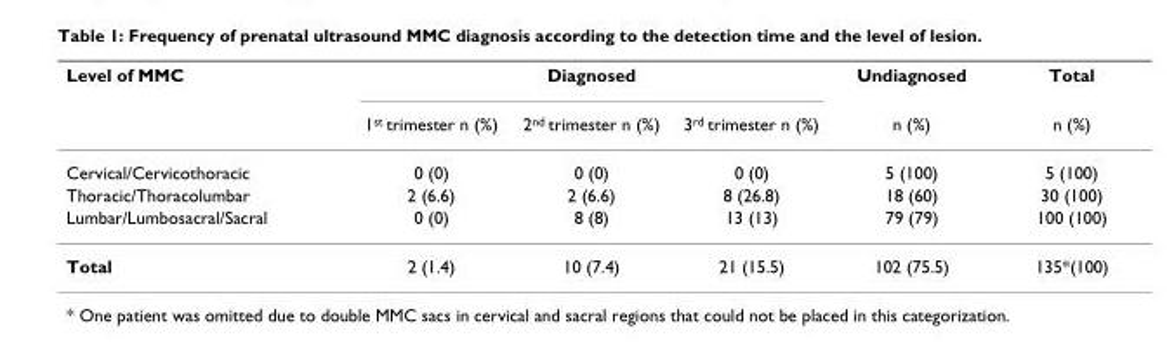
<table><thead><tr><td rowspan="2">Level of MMC</td><td colspan="3">Diagnosed</td><td rowspan="2">Undiagnosed n (%)</td><td rowspan="2">Total n (%)</td></tr><tr><td>1<sup>st</sup> trimester n (%)</td><td>2<sup>nd</sup> trimester n (%)</td><td>3<sup>rd</sup> trimester n (%)</td></tr></thead><tbody><tr><td>Cervical/Cervicothoracic</td><td>0 (0)</td><td>0 (0)</td><td>0 (0)</td><td>5 (100)</td><td>5 (100)</td></tr><tr><td>Thoracic/Thoracolumbar</td><td>2 (6.6)</td><td>2 (6.6)</td><td>8 (26.8)</td><td>18 (60)</td><td>30 (100)</td></tr><tr><td>Lumbar/Lumbosacral/Sacral</td><td>0 (0)</td><td>8 (8)</td><td>13 (13)</td><td>79 (79)</td><td>100 (100)</td></tr><tr><td>Total</td><td>2 (1.4)</td><td>10 (7.4)</td><td>21 (15.5)</td><td>102 (75.5)</td><td>135*(100)</td></tr></tbody></table>